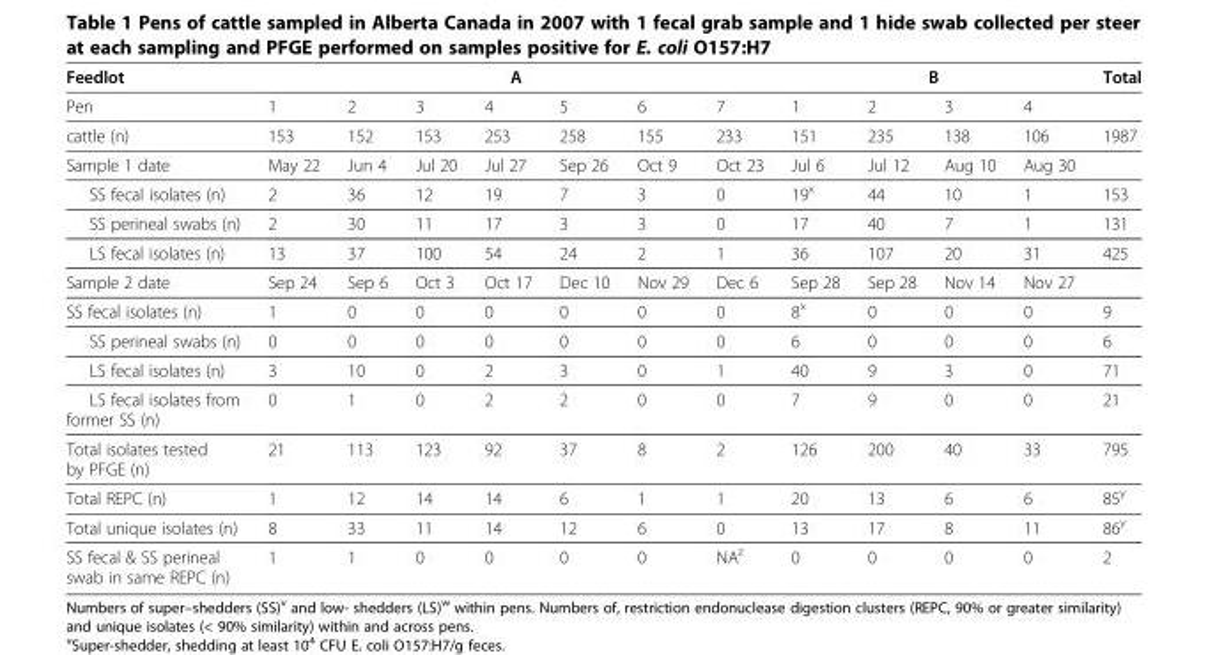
<table><thead><tr><td rowspan="2">Feedlot Pen</td><td colspan="7">A</td><td colspan="4">B</td><td rowspan="2">Total</td></tr><tr><td>1</td><td>2</td><td>3</td><td>4</td><td>5</td><td>6</td><td>7</td><td>1</td><td>2</td><td>3</td><td>4</td></tr></thead><tbody><tr><td>cattle (n)</td><td>153</td><td>152</td><td>153</td><td>253</td><td>258</td><td>155</td><td>233</td><td>151</td><td>235</td><td>138</td><td>106</td><td>1987</td></tr><tr><td>Sample 1 date</td><td>May 22</td><td>Jun 4</td><td>Jul 20</td><td>Jul 27</td><td>Sep 26</td><td>Oct 9</td><td>Oct 23</td><td>Jul 6</td><td>Jul 12</td><td>Aug 10</td><td>Aug 30</td><td></td></tr><tr><td>SS fecal isolates (n)</td><td>2</td><td>36</td><td>12</td><td>19</td><td>7</td><td>3</td><td>0</td><td>19<sup>x</sup></td><td>44</td><td>10</td><td>1</td><td>153</td></tr><tr><td>SS perineal swabs (n)</td><td>2</td><td>30</td><td>11</td><td>17</td><td>3</td><td>3</td><td>0</td><td>17</td><td>40</td><td>7</td><td>1</td><td>131</td></tr><tr><td>LS fecal isolates (n)</td><td>13</td><td>37</td><td>100</td><td>54</td><td>24</td><td>2</td><td>1</td><td>36</td><td>107</td><td>20</td><td>31</td><td>425</td></tr><tr><td>Sample 2 date</td><td>Sep 24</td><td>Sep 6</td><td>Oct 3</td><td>Oct 17</td><td>Dec 10</td><td>Nov 29</td><td>Dec 6</td><td>Sep 28</td><td>Sep 28</td><td>Nov 14</td><td>Nov 27</td><td></td></tr><tr><td>SS fecal isolates (n)</td><td>1</td><td>0</td><td>0</td><td>0</td><td>0</td><td>0</td><td>0</td><td>8<sup>x</sup></td><td>0</td><td>0</td><td>0</td><td>9</td></tr><tr><td>SS perineal swabs (n)</td><td>0</td><td>0</td><td>0</td><td>0</td><td>0</td><td>0</td><td>0</td><td>6</td><td>0</td><td>0</td><td>0</td><td>6</td></tr><tr><td>LS fecal isolates (n)</td><td>3</td><td>10</td><td>0</td><td>2</td><td>3</td><td>0</td><td>1</td><td>40</td><td>9</td><td>3</td><td>0</td><td>71</td></tr><tr><td>LS fecal isolates from former SS (n)</td><td>0</td><td>1</td><td>0</td><td>2</td><td>2</td><td>0</td><td>0</td><td>7</td><td>9</td><td>0</td><td>0</td><td>21</td></tr><tr><td>Total isolates tested by PFGE (n)</td><td>21</td><td>113</td><td>123</td><td>92</td><td>37</td><td>8</td><td>2</td><td>126</td><td>200</td><td>40</td><td>33</td><td>795</td></tr><tr><td>Total REPC (n)</td><td>1</td><td>12</td><td>14</td><td>14</td><td>6</td><td>1</td><td>1</td><td>20</td><td>13</td><td>6</td><td>6</td><td>85<sup>y</sup></td></tr><tr><td>Total unique isolates (n)</td><td>8</td><td>33</td><td>11</td><td>14</td><td>12</td><td>6</td><td>0</td><td>13</td><td>17</td><td>8</td><td>11</td><td>86<sup>y</sup></td></tr><tr><td>SS fecal &amp; SS perineal swab in same REPC (n)</td><td>1</td><td>1</td><td>0</td><td>0</td><td>0</td><td>0</td><td>NA<sup>z</sup></td><td>0</td><td>0</td><td>0</td><td>0</td><td>2</td></tr></tbody></table>